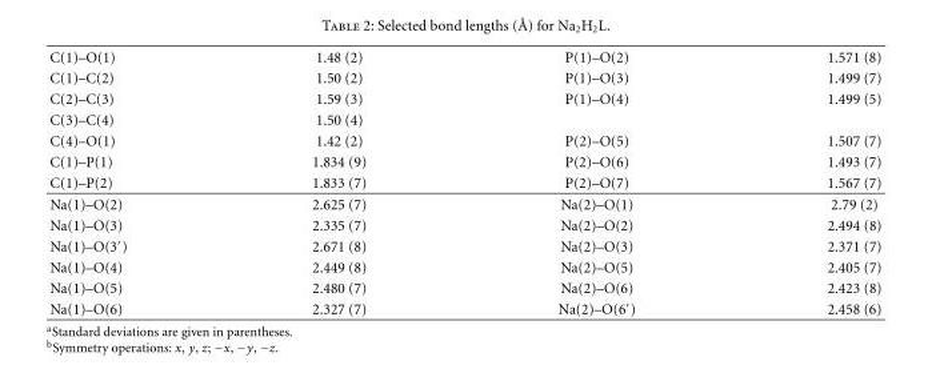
<table><tbody><tr><td>C(1)–O(1)</td><td>1.48 (2)</td><td>P(1)–O(2)</td><td>1.571 (8)</td></tr><tr><td>C(1)–C(2)</td><td>1.50 (2)</td><td>P(1)–O(3)</td><td>1.499 (7)</td></tr><tr><td>C(2)–C(3)</td><td>1.59 (3)</td><td>P(1)–O(4)</td><td>1.499 (5)</td></tr><tr><td>C(3)–C(4)</td><td>1.50 (4)</td><td></td><td></td></tr><tr><td>C(4)–O(1)</td><td>1.42 (2)</td><td>P(2)–O(5)</td><td>1.507 (7)</td></tr><tr><td>C(1)–P(1)</td><td>1.834 (9)</td><td>P(2)–O(6)</td><td>1.493 (7)</td></tr><tr><td>C(1)–P(2)</td><td>1.833 (7)</td><td>P(2)–O(7)</td><td>1.567 (7)</td></tr><tr><td>Na(1)–O(2)</td><td>2.625 (7)</td><td>Na(2)–O(1)</td><td>2.79 (2)</td></tr><tr><td>Na(1)–O(3)</td><td>2.335 (7)</td><td>Na(2)–O(2)</td><td>2.494 (8)</td></tr><tr><td>Na(1)–O(3′)</td><td>2.671 (8)</td><td>Na(2)–O(3)</td><td>2.371 (7)</td></tr><tr><td>Na(1)–O(4)</td><td>2.449 (8)</td><td>Na(2)–O(5)</td><td>2.405 (7)</td></tr><tr><td>Na(1)–O(5)</td><td>2.480 (7)</td><td>Na(2)–O(6)</td><td>2.423 (8)</td></tr><tr><td>Na(1)–O(6)</td><td>2.327 (7)</td><td>Na(2)–O(6′)</td><td>2.458 (6)</td></tr></tbody></table>